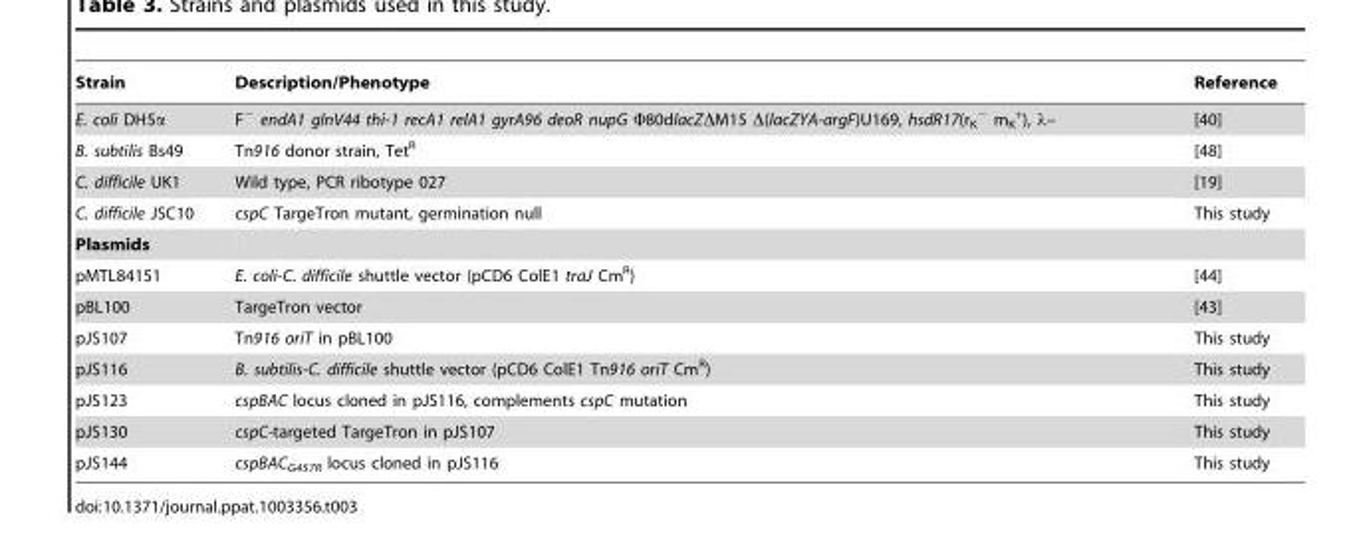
<table><thead><tr><td>Strain</td><td>Description/Phenotype</td><td>Reference</td></tr></thead><tbody><tr><td>E. coli DH5α</td><td>F<sup>−</sup> endA1 glnV44 thi-1 recA1 relA1 gyrA96 deoR nupG Φ80dlacZΔM15 Δ(lacZYA-argF)U169, hsdR17(r<sub>K</sub> <sup>−</sup> m<sub>K</sub> <sup>+</sup>), λ–</td><td>[40]</td></tr><tr><td>B. subtilis Bs49</td><td>Tn916 donor strain, Tet<sup>R</sup></td><td>[48]</td></tr><tr><td>C. difficile UK1</td><td>Wild type, PCR ribotype 027</td><td>[19]</td></tr><tr><td>C. difficile JSC10</td><td>cspC TargeTron mutant, germination null</td><td>This study</td></tr><tr><td colspan="3">Plasmids</td></tr><tr><td>pMTL84151</td><td>E. coli-C. difficile shuttle vector (pCD6 ColE1 traJ Cm<sup>R</sup>)</td><td>[44]</td></tr><tr><td>pBL100</td><td>TargeTron vector</td><td>[43]</td></tr><tr><td>pJS107</td><td>Tn916 oriT in pBL100</td><td>This study</td></tr><tr><td>pJS116</td><td>B. subtilis-C. difficile shuttle vector (pCD6 ColE1 Tn916 oriT Cm<sup>R</sup>)</td><td>This study</td></tr><tr><td>pJS123</td><td>cspBAC locus cloned in pJS116, complements cspC mutation</td><td>This study</td></tr><tr><td>pJS130</td><td>cspC-targeted TargeTron in pJS107</td><td>This study</td></tr><tr><td>pJS144</td><td>cspBAC<sub>G457R</sub> locus cloned in pJS116</td><td>This study</td></tr></tbody></table>